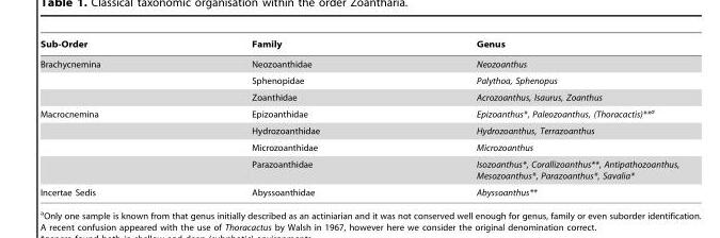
<table><thead><tr><td>Sub-Order</td><td>Family</td><td>Genus</td></tr></thead><tbody><tr><td rowspan="3">Brachycnemina</td><td>Neozoanthidae</td><td>Neozoanthus</td></tr><tr><td>Sphenopidae</td><td>Palythoa, Sphenopus</td></tr><tr><td>Zoanthidae</td><td>Acrozoanthus, Isaurus, Zoanthus</td></tr><tr><td rowspan="4">Macrocnemina</td><td>Epizoanthidae</td><td>Epizoanthus*, Paleozoanthus, (Thoracactis)**a</td></tr><tr><td>Hydrozoanthidae</td><td>Hydrozoanthus, Terrazoanthus</td></tr><tr><td>Microzoanthidae</td><td>Microzoanthus</td></tr><tr><td>Parazoanthidae</td><td>Isozoanthus*, Corallizoanthus**, Antipathozoanthus, Mesozoanthus*, Parazoanthus*, Savalia*</td></tr><tr><td>Incertae Sedis</td><td>Abyssoanthidae</td><td>Abyssoanthus**</td></tr></tbody></table>